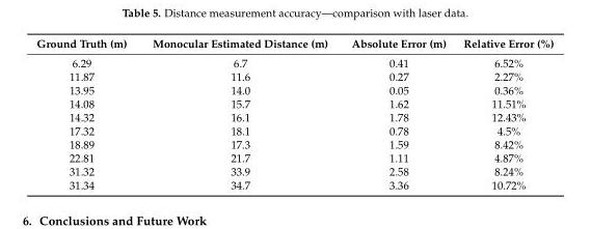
<table><thead><tr><td>Ground Truth (m)</td><td>Monocular Estimated Distance (m)</td><td>Absolute Error (m)</td><td>Relative Error (%)</td></tr></thead><tbody><tr><td>6.29</td><td>6.7</td><td>0.41</td><td>6.52%</td></tr><tr><td>11.87</td><td>11.6</td><td>0.27</td><td>2.27%</td></tr><tr><td>13.95</td><td>14.0</td><td>0.05</td><td>0.36%</td></tr><tr><td>14.08</td><td>15.7</td><td>1.62</td><td>11.51%</td></tr><tr><td>14.32</td><td>16.1</td><td>1.78</td><td>12.43%</td></tr><tr><td>17.32</td><td>18.1</td><td>0.78</td><td>4.5%</td></tr><tr><td>18.89</td><td>17.3</td><td>1.59</td><td>8.42%</td></tr><tr><td>22.81</td><td>21.7</td><td>1.11</td><td>4.87%</td></tr><tr><td>31.32</td><td>33.9</td><td>2.58</td><td>8.24%</td></tr><tr><td>31.34</td><td>34.7</td><td>3.36</td><td>10.72%</td></tr></tbody></table>